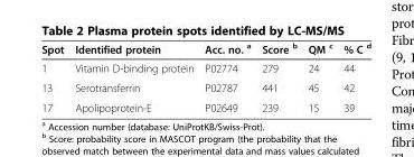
<table><thead><tr><td>Spot</td><td>Identified protein</td><td>Acc. no. <sup>a</sup></td><td>Score <sup>b</sup></td><td>QM <sup>c</sup></td><td>% C <sup>d</sup></td></tr></thead><tbody><tr><td>1</td><td>Vitamin D-binding protein</td><td>P02774</td><td>279</td><td>24</td><td>44</td></tr><tr><td>13</td><td>Serotransferrin</td><td>P02787</td><td>441</td><td>45</td><td>42</td></tr><tr><td>17</td><td>Apolipoprotein-E</td><td>P02649</td><td>239</td><td>15</td><td>39</td></tr></tbody></table>